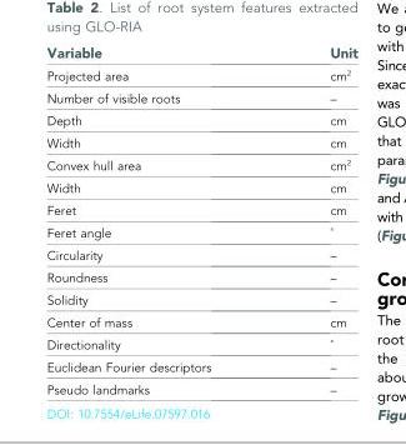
<table><thead><tr><td>Variable</td><td>Unit</td></tr></thead><tbody><tr><td>Projected area</td><td>cm<sup>2</sup></td></tr><tr><td>Number of visible roots</td><td>–</td></tr><tr><td>Depth</td><td>cm</td></tr><tr><td>Width</td><td>cm</td></tr><tr><td>Convex hull area</td><td>cm<sup>2</sup></td></tr><tr><td>Width</td><td>cm</td></tr><tr><td>Feret</td><td>cm</td></tr><tr><td>Feret angle</td><td>˚</td></tr><tr><td>Circularity</td><td>–</td></tr><tr><td>Roundness</td><td>–</td></tr><tr><td>Solidity</td><td>–</td></tr><tr><td>Center of mass</td><td>cm</td></tr><tr><td>Directionality</td><td>˚</td></tr><tr><td>Euclidean Fourier descriptors</td><td>–</td></tr><tr><td>Pseudo landmarks</td><td>–</td></tr></tbody></table>